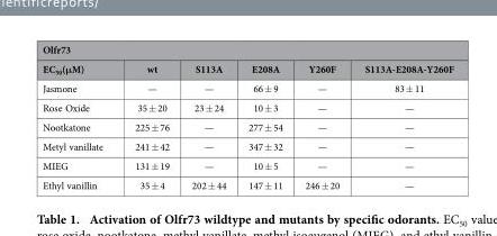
<table><thead><tr><td colspan="6">Olfr73</td></tr><tr><td>EC<sub>50</sub>(μM)</td><td>wt</td><td>S113A</td><td>E208A</td><td>Y260F</td><td>S113A-E208A-Y260F</td></tr></thead><tbody><tr><td>Jasmone</td><td>—</td><td>—</td><td>66 ± 9</td><td>—</td><td>83 ± 11</td></tr><tr><td>Rose Oxide</td><td>35 ± 20</td><td>23 ± 24</td><td>10 ± 3</td><td>—</td><td>—</td></tr><tr><td>Nootkatone</td><td>225 ± 76</td><td>—</td><td>277 ± 54</td><td>—</td><td>—</td></tr><tr><td>Metyl vanillate</td><td>241 ± 42</td><td>—</td><td>347 ± 32</td><td>—</td><td>—</td></tr><tr><td>MIEG</td><td>131 ± 19</td><td>—</td><td>10 ± 5</td><td>—</td><td>—</td></tr><tr><td>Ethyl vanillin</td><td>35 ± 4</td><td>202 ± 44</td><td>147 ± 11</td><td>246 ± 20</td><td>—</td></tr></tbody></table>